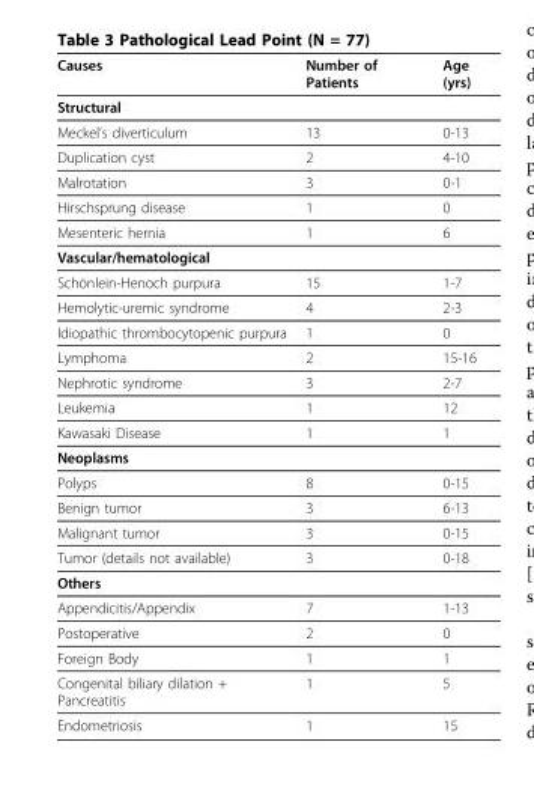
<table><thead><tr><td>Causes</td><td>Number of Patients</td><td>Age (yrs)</td></tr></thead><tbody><tr><td colspan="3">Structural</td></tr><tr><td>Meckel’s diverticulum</td><td>13</td><td>0-13</td></tr><tr><td>Duplication cyst</td><td>2</td><td>4-10</td></tr><tr><td>Malrotation</td><td>3</td><td>0-1</td></tr><tr><td>Hirschsprung disease</td><td>1</td><td>0</td></tr><tr><td>Mesenteric hernia</td><td>1</td><td>6</td></tr><tr><td colspan="3">Vascular/hematological</td></tr><tr><td>Schönlein-Henoch purpura</td><td>15</td><td>1-7</td></tr><tr><td>Hemolytic-uremic syndrome</td><td>4</td><td>2-3</td></tr><tr><td>Idiopathic thrombocytopenic purpura</td><td>1</td><td>0</td></tr><tr><td>Lymphoma</td><td>2</td><td>15-16</td></tr><tr><td>Nephrotic syndrome</td><td>3</td><td>2-7</td></tr><tr><td>Leukemia</td><td>1</td><td>12</td></tr><tr><td>Kawasaki Disease</td><td>1</td><td>1</td></tr><tr><td colspan="3">Neoplasms</td></tr><tr><td>Polyps</td><td>8</td><td>0-15</td></tr><tr><td>Benign tumor</td><td>3</td><td>6-13</td></tr><tr><td>Malignant tumor</td><td>3</td><td>0-15</td></tr><tr><td>Tumor (details not available)</td><td>3</td><td>0-18</td></tr><tr><td colspan="3">Others</td></tr><tr><td>Appendicitis/Appendix</td><td>7</td><td>1-13</td></tr><tr><td>Postoperative</td><td>2</td><td>0</td></tr><tr><td>Foreign Body</td><td>1</td><td>1</td></tr><tr><td>Congenital biliary dilation + Pancreatitis</td><td>1</td><td>5</td></tr><tr><td>Endometriosis</td><td>1</td><td>15</td></tr></tbody></table>